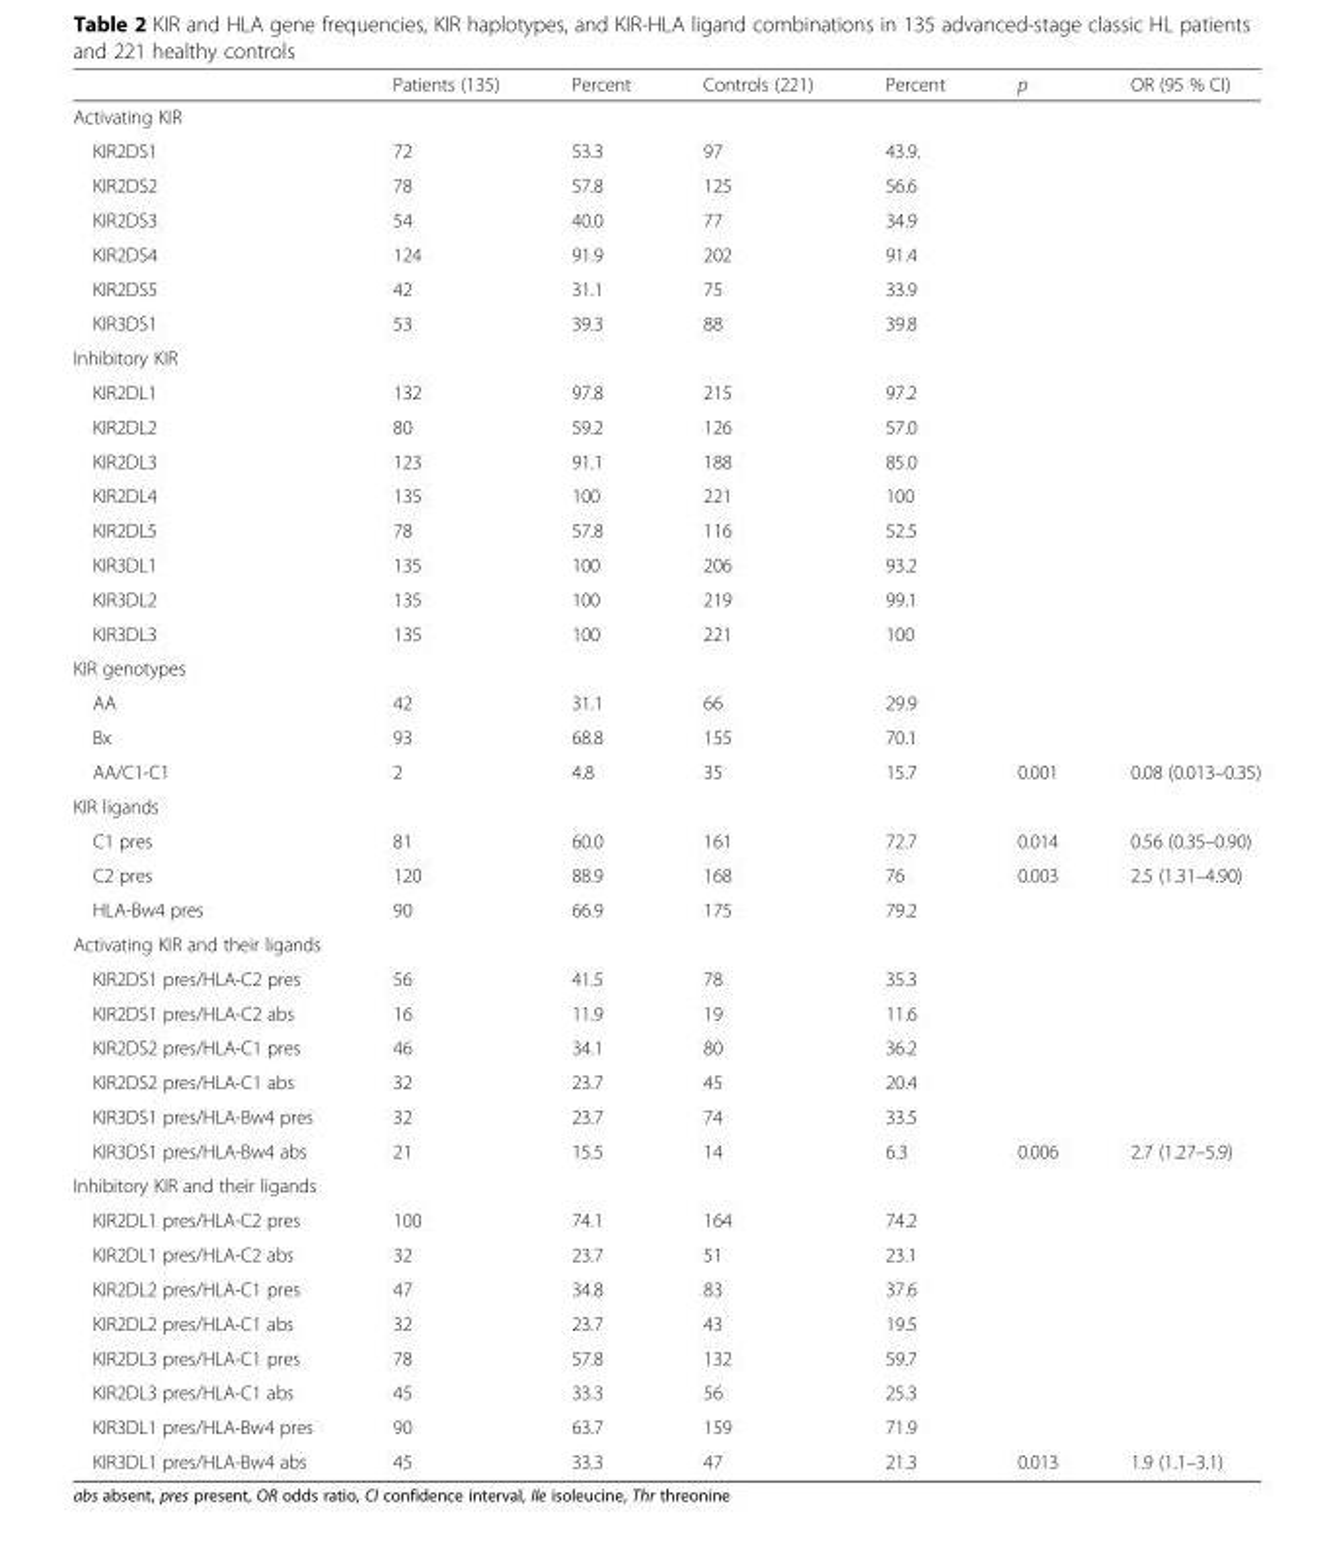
<table><thead><tr><td></td><td>Patients (135)</td><td>Percent</td><td>Controls (221)</td><td>Percent</td><td>p</td><td>OR (95 % CI)</td></tr></thead><tbody><tr><td colspan="7">Activating KIR</td></tr><tr><td>KIR2DS1</td><td>72</td><td>53.3</td><td>97</td><td>43.9.</td><td></td><td></td></tr><tr><td>KIR2DS2</td><td>78</td><td>57.8</td><td>125</td><td>56.6</td><td></td><td></td></tr><tr><td>KIR2DS3</td><td>54</td><td>40.0</td><td>77</td><td>34.9</td><td></td><td></td></tr><tr><td>KIR2DS4</td><td>124</td><td>91.9</td><td>202</td><td>91.4</td><td></td><td></td></tr><tr><td>KIR2DS5</td><td>42</td><td>31.1</td><td>75</td><td>33.9</td><td></td><td></td></tr><tr><td>KIR3DS1</td><td>53</td><td>39.3</td><td>88</td><td>39.8</td><td></td><td></td></tr><tr><td colspan="7">Inhibitory KIR</td></tr><tr><td>KIR2DL1</td><td>132</td><td>97.8</td><td>215</td><td>97.2</td><td></td><td></td></tr><tr><td>KIR2DL2</td><td>80</td><td>59.2</td><td>126</td><td>57.0</td><td></td><td></td></tr><tr><td>KIR2DL3</td><td>123</td><td>91.1</td><td>188</td><td>85.0</td><td></td><td></td></tr><tr><td>KIR2DL4</td><td>135</td><td>100</td><td>221</td><td>100</td><td></td><td></td></tr><tr><td>KIR2DL5</td><td>78</td><td>57.8</td><td>116</td><td>52.5</td><td></td><td></td></tr><tr><td>KIR3DL1</td><td>135</td><td>100</td><td>206</td><td>93.2</td><td></td><td></td></tr><tr><td>KIR3DL2</td><td>135</td><td>100</td><td>219</td><td>99.1</td><td></td><td></td></tr><tr><td>KIR3DL3</td><td>135</td><td>100</td><td>221</td><td>100</td><td></td><td></td></tr><tr><td colspan="7">KIR genotypes</td></tr><tr><td>AA</td><td>42</td><td>31.1</td><td>66</td><td>29.9</td><td></td><td></td></tr><tr><td>Bx</td><td>93</td><td>68.8</td><td>155</td><td>70.1</td><td></td><td></td></tr><tr><td>AA/C1-C1</td><td>2</td><td>4.8</td><td>35</td><td>15.7</td><td>0.001</td><td>0.08 (0.013–0.35)</td></tr><tr><td colspan="7">KIR ligands</td></tr><tr><td>C1 pres</td><td>81</td><td>60.0</td><td>161</td><td>72.7</td><td>0.014</td><td>0.56 (0.35–0.90)</td></tr><tr><td>C2 pres</td><td>120</td><td>88.9</td><td>168</td><td>76</td><td>0.003</td><td>2.5 (1.31–4.90)</td></tr><tr><td>HLA-Bw4 pres</td><td>90</td><td>66.9</td><td>175</td><td>79.2</td><td></td><td></td></tr><tr><td colspan="7">Activating KIR and their ligands</td></tr><tr><td>KIR2DS1 pres/HLA-C2 pres</td><td>56</td><td>41.5</td><td>78</td><td>35.3</td><td></td><td></td></tr><tr><td>KIR2DS1 pres/HLA-C2 abs</td><td>16</td><td>11.9</td><td>19</td><td>11.6</td><td></td><td></td></tr><tr><td>KIR2DS2 pres/HLA-C1 pres</td><td>46</td><td>34.1</td><td>80</td><td>36.2</td><td></td><td></td></tr><tr><td>KIR2DS2 pres/HLA-C1 abs</td><td>32</td><td>23.7</td><td>45</td><td>20.4</td><td></td><td></td></tr><tr><td>KIR3DS1 pres/HLA-Bw4 pres</td><td>32</td><td>23.7</td><td>74</td><td>33.5</td><td></td><td></td></tr><tr><td>KIR3DS1 pres/HLA-Bw4 abs</td><td>21</td><td>15.5</td><td>14</td><td>6.3</td><td>0.006</td><td>2.7 (1.27–5.9)</td></tr><tr><td colspan="7">Inhibitory KIR and their ligands</td></tr><tr><td>KIR2DL1 pres/HLA-C2 pres</td><td>100</td><td>74.1</td><td>164</td><td>74.2</td><td></td><td></td></tr><tr><td>KIR2DL1 pres/HLA-C2 abs</td><td>32</td><td>23.7</td><td>51</td><td>23.1</td><td></td><td></td></tr><tr><td>KIR2DL2 pres/HLA-C1 pres</td><td>47</td><td>34.8</td><td>83</td><td>37.6</td><td></td><td></td></tr><tr><td>KIR2DL2 pres/HLA-C1 abs</td><td>32</td><td>23.7</td><td>43</td><td>19.5</td><td></td><td></td></tr><tr><td>KIR2DL3 pres/HLA-C1 pres</td><td>78</td><td>57.8</td><td>132</td><td>59.7</td><td></td><td></td></tr><tr><td>KIR2DL3 pres/HLA-C1 abs</td><td>45</td><td>33.3</td><td>56</td><td>25.3</td><td></td><td></td></tr><tr><td>KIR3DL1 pres/HLA-Bw4 pres</td><td>90</td><td>63.7</td><td>159</td><td>71.9</td><td></td><td></td></tr><tr><td>KIR3DL1 pres/HLA-Bw4 abs</td><td>45</td><td>33.3</td><td>47</td><td>21.3</td><td>0.013</td><td>1.9 (1.1–3.1)</td></tr></tbody></table>